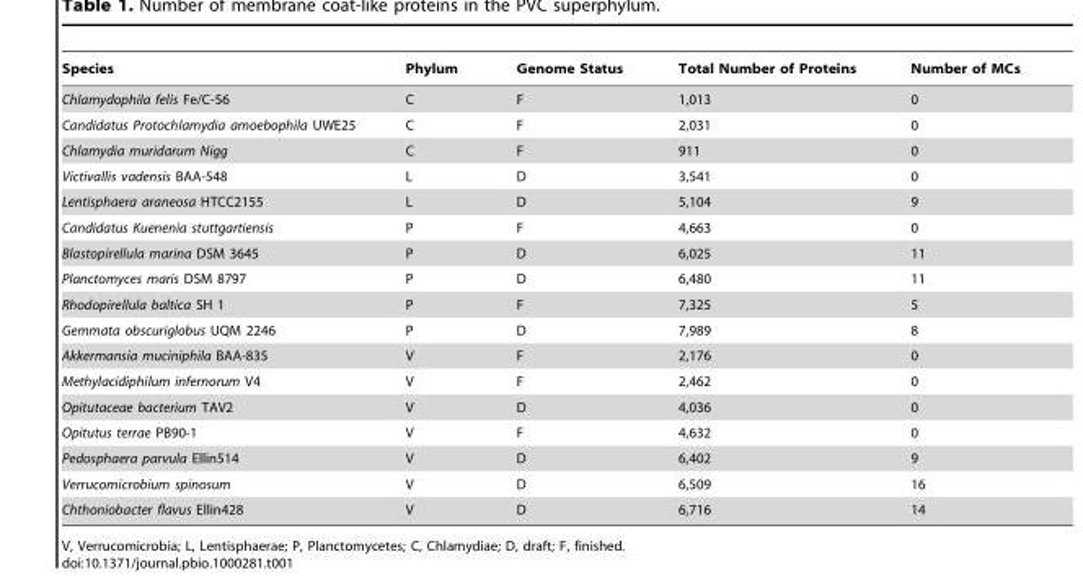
<table><thead><tr><td>Species</td><td>Phylum</td><td>Genome Status</td><td>Total Number of Proteins</td><td>Number of MCs</td></tr></thead><tbody><tr><td>Chlamydophila felis Fe/C-56</td><td>C</td><td>F</td><td>1,013</td><td>0</td></tr><tr><td>Candidatus Protochlamydia amoebophila UWE25</td><td>C</td><td>F</td><td>2,031</td><td>0</td></tr><tr><td>Chlamydia muridarum Nigg</td><td>C</td><td>F</td><td>911</td><td>0</td></tr><tr><td>Victivallis vadensis BAA-548</td><td>L</td><td>D</td><td>3,541</td><td>0</td></tr><tr><td>Lentisphaera araneosa HTCC2155</td><td>L</td><td>D</td><td>5,104</td><td>9</td></tr><tr><td>Candidatus Kuenenia stuttgartiensis</td><td>P</td><td>F</td><td>4,663</td><td>0</td></tr><tr><td>Blastopirellula marina DSM 3645</td><td>P</td><td>D</td><td>6,025</td><td>11</td></tr><tr><td>Planctomyces maris DSM 8797</td><td>P</td><td>D</td><td>6,480</td><td>11</td></tr><tr><td>Rhodopirellula baltica SH 1</td><td>P</td><td>F</td><td>7,325</td><td>5</td></tr><tr><td>Gemmata obscuriglobus UQM 2246</td><td>P</td><td>D</td><td>7,989</td><td>8</td></tr><tr><td>Akkermansia muciniphila BAA-835</td><td>V</td><td>F</td><td>2,176</td><td>0</td></tr><tr><td>Methylacidiphilum infernorum V4</td><td>V</td><td>F</td><td>2,462</td><td>0</td></tr><tr><td>Opitutaceae bacterium TAV2</td><td>V</td><td>D</td><td>4,036</td><td>0</td></tr><tr><td>Opitutus terrae PB90-1</td><td>V</td><td>F</td><td>4,632</td><td>0</td></tr><tr><td>Pedosphaera parvula Ellin514</td><td>V</td><td>D</td><td>6,402</td><td>9</td></tr><tr><td>Verrucomicrobium spinosum</td><td>V</td><td>D</td><td>6,509</td><td>16</td></tr><tr><td>Chthoniobacter flavus Ellin428</td><td>V</td><td>D</td><td>6,716</td><td>14</td></tr></tbody></table>